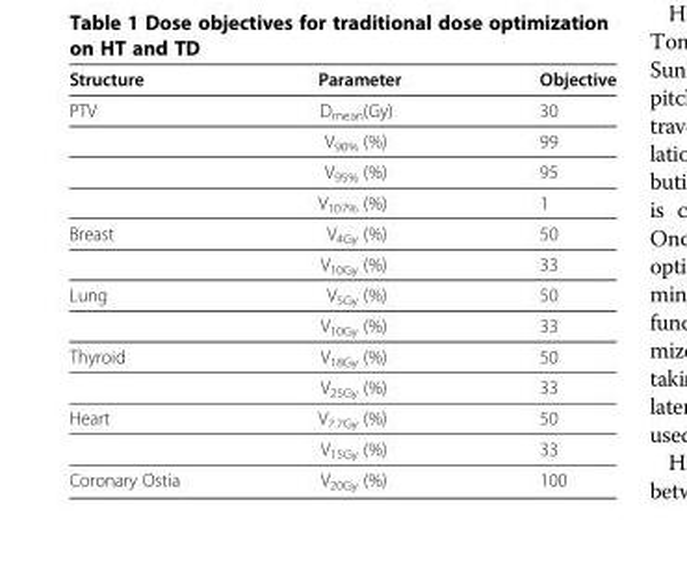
<table><thead><tr><td>Structure</td><td>Parameter</td><td>Objective</td></tr></thead><tbody><tr><td rowspan="4">PTV</td><td>D<sub>mean</sub>(Gy)</td><td>30</td></tr><tr><td>V<sub>90%</sub> (%)</td><td>99</td></tr><tr><td>V<sub>95%</sub> (%)</td><td>95</td></tr><tr><td>V<sub>107%</sub> (%)</td><td>1</td></tr><tr><td rowspan="2">Breast</td><td>V<sub>4Gy</sub> (%)</td><td>50</td></tr><tr><td>V<sub>10Gy</sub> (%)</td><td>33</td></tr><tr><td rowspan="2">Lung</td><td>V<sub>5Gy</sub> (%)</td><td>50</td></tr><tr><td>V<sub>10Gy</sub> (%)</td><td>33</td></tr><tr><td rowspan="2">Thyroid</td><td>V<sub>18Gy</sub> (%)</td><td>50</td></tr><tr><td>V<sub>25Gy</sub> (%)</td><td>33</td></tr><tr><td rowspan="2">Heart</td><td>V<sub>7.7Gy</sub> (%)</td><td>50</td></tr><tr><td>V<sub>15Gy</sub> (%)</td><td>33</td></tr><tr><td>Coronary Ostia</td><td>V<sub>20Gy</sub> (%)</td><td>100</td></tr></tbody></table>